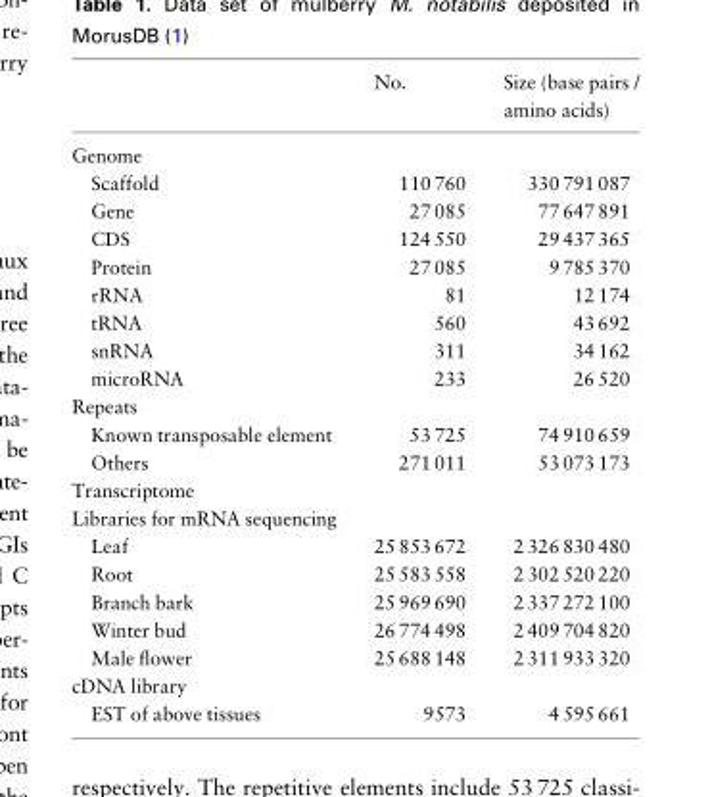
<table><thead><tr><td></td><td>No.</td><td>Size (base pairs / amino acids)</td></tr></thead><tbody><tr><td colspan="3">Genome</td></tr><tr><td>Scaffold</td><td>110 760</td><td>330 791 087</td></tr><tr><td>Gene</td><td>27 085</td><td>77 647 891</td></tr><tr><td>CDS</td><td>124 550</td><td>29 437 365</td></tr><tr><td>Protein</td><td>27 085</td><td>9 785 370</td></tr><tr><td>rRNA</td><td>81</td><td>12 174</td></tr><tr><td>tRNA</td><td>560</td><td>43 692</td></tr><tr><td>snRNA</td><td>311</td><td>34 162</td></tr><tr><td>microRNA</td><td>233</td><td>26 520</td></tr><tr><td colspan="3">Repeats</td></tr><tr><td>Known transposable element</td><td>53 725</td><td>74 910 659</td></tr><tr><td>Others</td><td>271 011</td><td>53 073 173</td></tr><tr><td colspan="3">Transcriptome</td></tr><tr><td colspan="3">Libraries for mRNA sequencing</td></tr><tr><td>Leaf</td><td>25 853 672</td><td>2 326 830 480</td></tr><tr><td>Root</td><td>25 583 558</td><td>2 302 520 220</td></tr><tr><td>Branch bark</td><td>25 969 690</td><td>2 337 272 100</td></tr><tr><td>Winter bud</td><td>26 774 498</td><td>2 409 704 820</td></tr><tr><td>Male flower</td><td>25 688 148</td><td>2 311 933 320</td></tr><tr><td colspan="3">cDNA library</td></tr><tr><td>EST of above tissues</td><td>9573</td><td>4 595 661</td></tr></tbody></table>